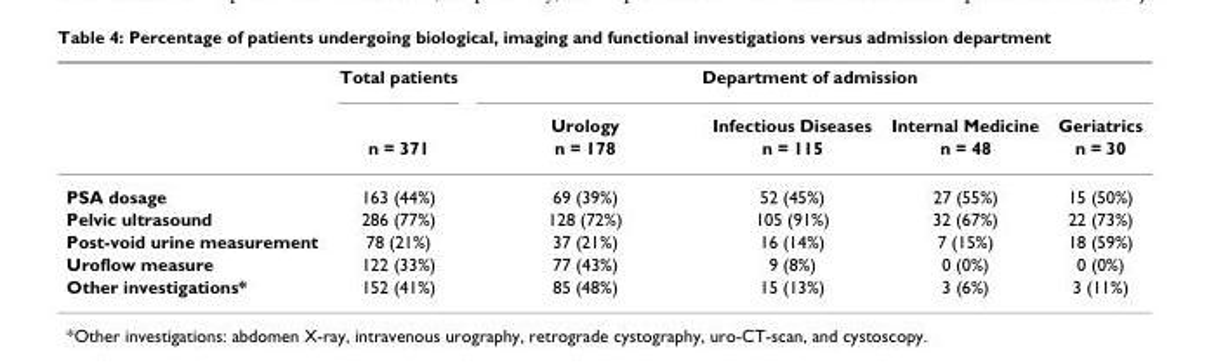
<table><thead><tr><td rowspan="3"></td><td rowspan="3">Total patients n = 371</td><td colspan="4">Department of admission</td></tr><tr><td rowspan="2">Urology n = 178</td><td rowspan="2">Infectious Diseases n = 115</td><td rowspan="2">Internal Medicine n = 48</td><td rowspan="2">Geriatrics n = 30</td></tr><tr></tr></thead><tbody><tr><td>PSA dosage</td><td>163 (44%)</td><td>69 (39%)</td><td>52 (45%)</td><td>27 (55%)</td><td>15 (50%)</td></tr><tr><td>Pelvic ultrasound</td><td>286 (77%)</td><td>128 (72%)</td><td>105 (91%)</td><td>32 (67%)</td><td>22 (73%)</td></tr><tr><td>Post-void urine measurement</td><td>78 (21%)</td><td>37 (21%)</td><td>16 (14%)</td><td>7 (15%)</td><td>18 (59%)</td></tr><tr><td>Uroflow measure</td><td>122 (33%)</td><td>77 (43%)</td><td>9 (8%)</td><td>0 (0%)</td><td>0 (0%)</td></tr><tr><td>Other investigations*</td><td>152 (41%)</td><td>85 (48%)</td><td>15 (13%)</td><td>3 (6%)</td><td>3 (11%)</td></tr></tbody></table>